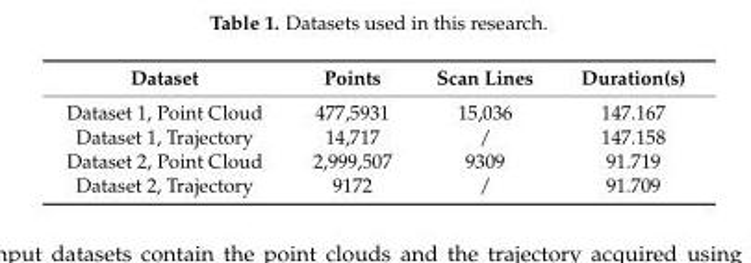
<table><thead><tr><td>Dataset</td><td>Points</td><td>Scan Lines</td><td>Duration(s)</td></tr></thead><tbody><tr><td>Dataset 1, Point Cloud</td><td>477,5931</td><td>15,036</td><td>147.167</td></tr><tr><td>Dataset 1, Trajectory</td><td>14,717</td><td>/</td><td>147.158</td></tr><tr><td>Dataset 2, Point Cloud</td><td>2,999,507</td><td>9309</td><td>91.719</td></tr><tr><td>Dataset 2, Trajectory</td><td>9172</td><td>/</td><td>91.709</td></tr></tbody></table>